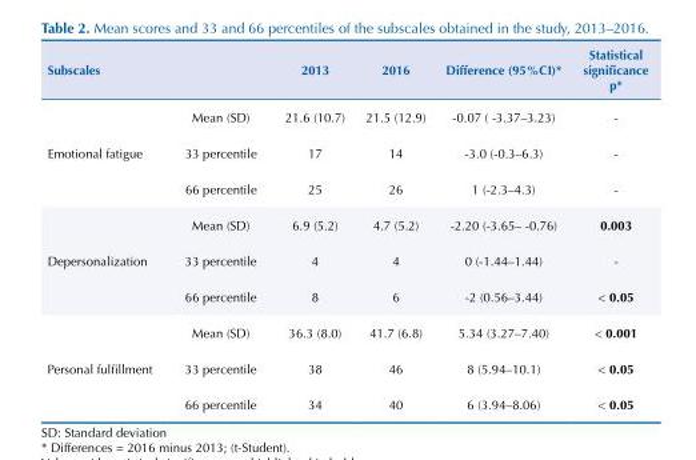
<table><thead><tr><td>Subscales</td><td></td><td>2013</td><td>2016</td><td>Difference (95%CI)*</td><td>Statistical significance p*</td></tr></thead><tbody><tr><td rowspan="3">Emotional fatigue</td><td>Mean (SD)</td><td>21.6 (10.7)</td><td>21.5 (12.9)</td><td>-0.07 ( -3.37–3.23)</td><td>-</td></tr><tr><td>33 percentile</td><td>17</td><td>14</td><td>-3.0 (-0.3–6.3)</td><td>-</td></tr><tr><td>66 percentile</td><td>25</td><td>26</td><td>1 (-2.3–4.3)</td><td>-</td></tr><tr><td rowspan="3">Depersonalization</td><td>Mean (SD)</td><td>6.9 (5.2)</td><td>4.7 (5.2)</td><td>-2.20 (-3.65– -0.76)</td><td>0.003</td></tr><tr><td>33 percentile</td><td>4</td><td>4</td><td>0 (-1.44–1.44)</td><td>-</td></tr><tr><td>66 percentile</td><td>8</td><td>6</td><td>-2 (0.56–3.44)</td><td>&lt; 0.05</td></tr><tr><td rowspan="3">Personal fulfillment</td><td>Mean (SD)</td><td>36.3 (8.0)</td><td>41.7 (6.8)</td><td>5.34 (3.27–7.40)</td><td>&lt; 0.001</td></tr><tr><td>33 percentile</td><td>38</td><td>46</td><td>8 (5.94–10.1)</td><td>&lt; 0.05</td></tr><tr><td>66 percentile</td><td>34</td><td>40</td><td>6 (3.94–8.06)</td><td>&lt; 0.05</td></tr></tbody></table>